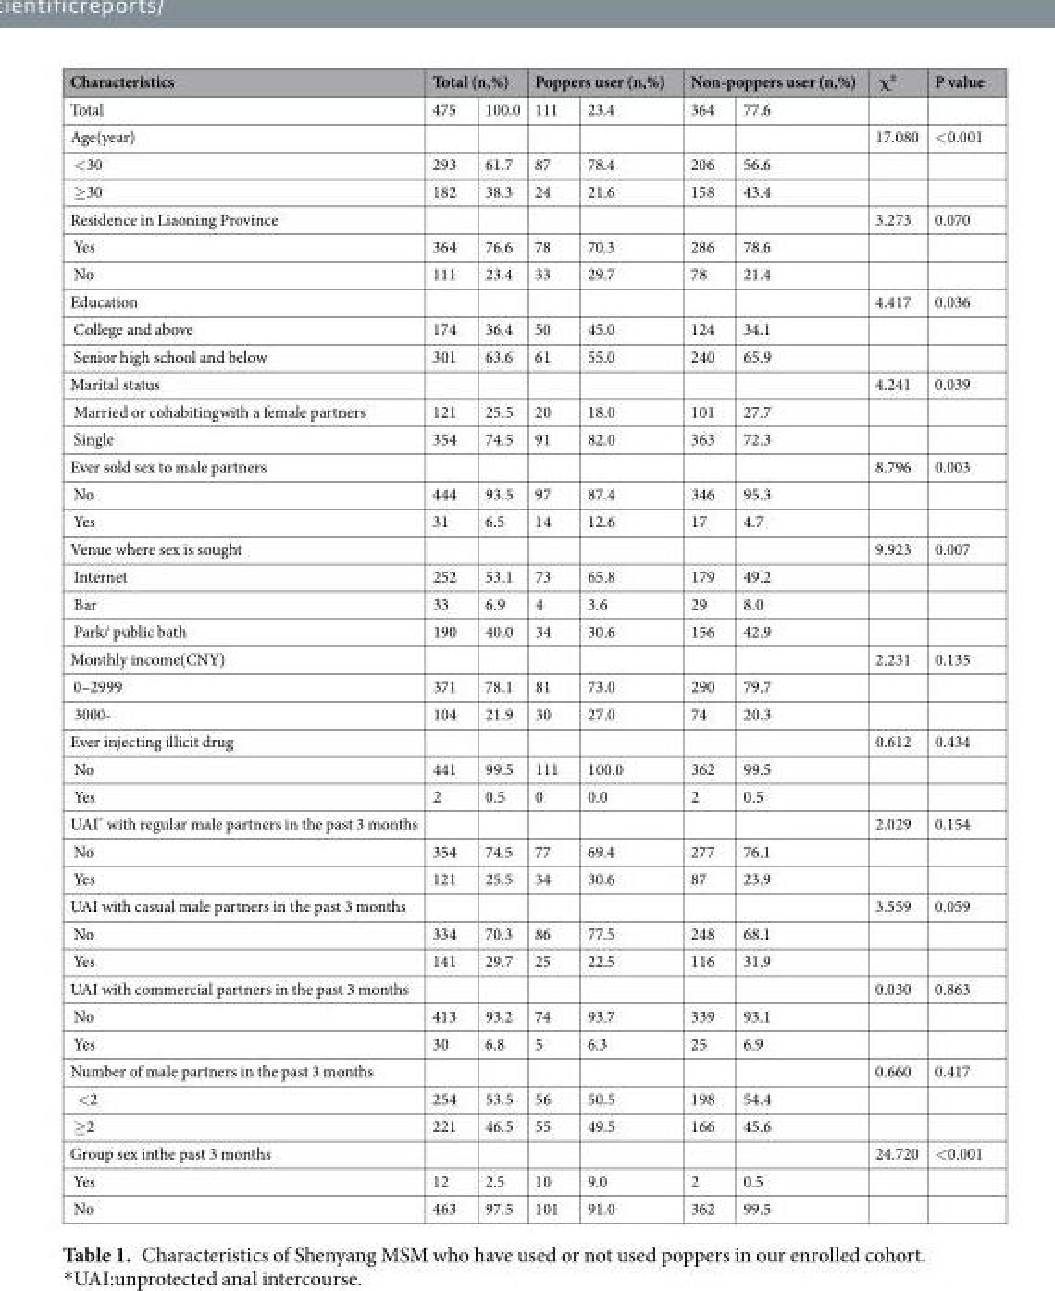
<table><thead><tr><td rowspan="2">Characteristics Total</td><td colspan="2">Total (n,%)</td><td colspan="2">Poppers user (n,%)</td><td colspan="2">Non-poppers user (n,%)</td><td rowspan="2">χ²</td><td rowspan="2">P value</td></tr><tr><td>475</td><td>100.0</td><td>111</td><td>23.4</td><td>364</td><td>77.6</td></tr></thead><tbody><tr><td>Age(year)</td><td></td><td></td><td></td><td></td><td></td><td></td><td>17.080</td><td>&lt;0.001</td></tr><tr><td>&lt;30</td><td>293</td><td>61.7</td><td>87</td><td>78.4</td><td>206</td><td>56.6</td><td></td><td></td></tr><tr><td>≥30</td><td>182</td><td>38.3</td><td>24</td><td>21.6</td><td>158</td><td>43.4</td><td></td><td></td></tr><tr><td>Residence in Liaoning Province</td><td></td><td></td><td></td><td></td><td></td><td></td><td>3.273</td><td>0.070</td></tr><tr><td>Yes</td><td>364</td><td>76.6</td><td>78</td><td>70.3</td><td>286</td><td>78.6</td><td></td><td></td></tr><tr><td>No</td><td>111</td><td>23.4</td><td>33</td><td>29.7</td><td>78</td><td>21.4</td><td></td><td></td></tr><tr><td>Education</td><td></td><td></td><td></td><td></td><td></td><td></td><td>4.417</td><td>0.036</td></tr><tr><td>College and above</td><td>174</td><td>36.4</td><td>50</td><td>45.0</td><td>124</td><td>34.1</td><td></td><td></td></tr><tr><td>Senior high school and below</td><td>301</td><td>63.6</td><td>61</td><td>55.0</td><td>240</td><td>65.9</td><td></td><td></td></tr><tr><td>Marital status</td><td></td><td></td><td></td><td></td><td></td><td></td><td>4.241</td><td>0.039</td></tr><tr><td>Married or cohabitingwith a female partners</td><td>121</td><td>25.5</td><td>20</td><td>18.0</td><td>101</td><td>27.7</td><td></td><td></td></tr><tr><td>Single</td><td>354</td><td>74.5</td><td>91</td><td>82.0</td><td>363</td><td>72.3</td><td></td><td></td></tr><tr><td>Ever sold sex to male partners</td><td></td><td></td><td></td><td></td><td></td><td></td><td>8.796</td><td>0.003</td></tr><tr><td>No</td><td>444</td><td>93.5</td><td>97</td><td>87.4</td><td>346</td><td>95.3</td><td></td><td></td></tr><tr><td>Yes</td><td>31</td><td>6.5</td><td>14</td><td>12.6</td><td>17</td><td>4.7</td><td></td><td></td></tr><tr><td>Venue where sex is sought</td><td></td><td></td><td></td><td></td><td></td><td></td><td>9.923</td><td>0.007</td></tr><tr><td>Internet</td><td>252</td><td>53.1</td><td>73</td><td>65.8</td><td>179</td><td>49.2</td><td></td><td></td></tr><tr><td>Bar</td><td>33</td><td>6.9</td><td>4</td><td>3.6</td><td>29</td><td>8.0</td><td></td><td></td></tr><tr><td>Park/ public bath</td><td>190</td><td>40.0</td><td>34</td><td>30.6</td><td>156</td><td>42.9</td><td></td><td></td></tr><tr><td>Monthly income(CNY)</td><td></td><td></td><td></td><td></td><td></td><td></td><td>2.231</td><td>0.135</td></tr><tr><td>0–2999</td><td>371</td><td>78.1</td><td>81</td><td>73.0</td><td>290</td><td>79.7</td><td></td><td></td></tr><tr><td>3000-</td><td>104</td><td>21.9</td><td>30</td><td>27.0</td><td>74</td><td>20.3</td><td></td><td></td></tr><tr><td>Ever injecting illicit drug</td><td></td><td></td><td></td><td></td><td></td><td></td><td>0.612</td><td>0.434</td></tr><tr><td>No</td><td>441</td><td>99.5</td><td>111</td><td>100.0</td><td>362</td><td>99.5</td><td></td><td></td></tr><tr><td>Yes</td><td>2</td><td>0.5</td><td>0</td><td>0.0</td><td>2</td><td>0.5</td><td></td><td></td></tr><tr><td>UAI* with regular male partners in the past 3 months</td><td></td><td></td><td></td><td></td><td></td><td></td><td>2.029</td><td>0.154</td></tr><tr><td>No</td><td>354</td><td>74.5</td><td>77</td><td>69.4</td><td>277</td><td>76.1</td><td></td><td></td></tr><tr><td>Yes</td><td>121</td><td>25.5</td><td>34</td><td>30.6</td><td>87</td><td>23.9</td><td></td><td></td></tr><tr><td>UAI with casual male partners in the past 3 months</td><td></td><td></td><td></td><td></td><td></td><td></td><td>3.559</td><td>0.059</td></tr><tr><td>No</td><td>334</td><td>70.3</td><td>86</td><td>77.5</td><td>248</td><td>68.1</td><td></td><td></td></tr><tr><td>Yes</td><td>141</td><td>29.7</td><td>25</td><td>22.5</td><td>116</td><td>31.9</td><td></td><td></td></tr><tr><td>UAI with commercial partners in the past 3 months</td><td></td><td></td><td></td><td></td><td></td><td></td><td>0.030</td><td>0.863</td></tr><tr><td>No</td><td>413</td><td>93.2</td><td>74</td><td>93.7</td><td>339</td><td>93.1</td><td></td><td></td></tr><tr><td>Yes</td><td>30</td><td>6.8</td><td>5</td><td>6.3</td><td>25</td><td>6.9</td><td></td><td></td></tr><tr><td>Number of male partners in the past 3 months</td><td></td><td></td><td></td><td></td><td></td><td></td><td>0.660</td><td>0.417</td></tr><tr><td>&lt;2</td><td>254</td><td>53.5</td><td>56</td><td>50.5</td><td>198</td><td>54.4</td><td></td><td></td></tr><tr><td>≥2</td><td>221</td><td>46.5</td><td>55</td><td>49.5</td><td>166</td><td>45.6</td><td></td><td></td></tr><tr><td>Group sex inthe past 3 months</td><td></td><td></td><td></td><td></td><td></td><td></td><td>24.720</td><td>&lt;0.001</td></tr><tr><td>Yes</td><td>12</td><td>2.5</td><td>10</td><td>9.0</td><td>2</td><td>0.5</td><td></td><td></td></tr><tr><td>No</td><td>463</td><td>97.5</td><td>101</td><td>91.0</td><td>362</td><td>99.5</td><td></td><td></td></tr></tbody></table>